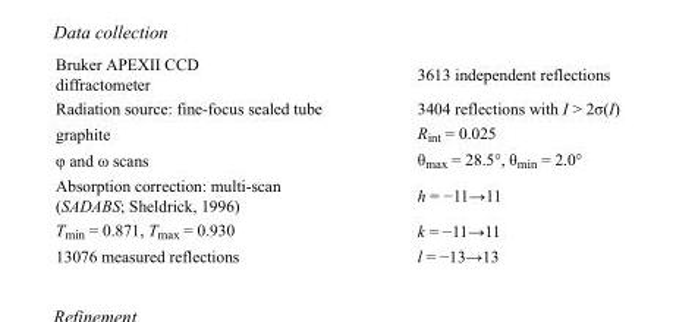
<table><tbody><tr><td>Bruker APEXII CCD diffractometer</td><td>3613 independent reflections</td></tr><tr><td>Radiation source: fine-focus sealed tube</td><td>3404 reflections with I &gt; 2σ(I)</td></tr><tr><td>graphite</td><td>R<sub>int</sub> = 0.025</td></tr><tr><td>φ and ω scans</td><td>θ<sub>max</sub> = 28.5°, θ<sub>min</sub> = 2.0°</td></tr><tr><td>Absorption correction: multi-scan (SADABS; Sheldrick, 1996)</td><td>h = −11→11</td></tr><tr><td>T<sub>min</sub> = 0.871, T<sub>max</sub> = 0.930</td><td>k = −11→11</td></tr><tr><td>13076 measured reflections</td><td>l = −13→13</td></tr></tbody></table>